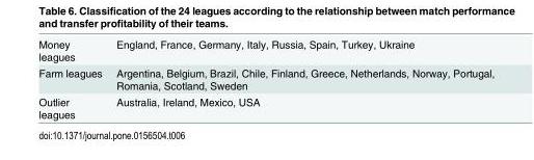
<table><tbody><tr><td>Money leagues</td><td>England, France, Germany, Italy, Russia, Spain, Turkey, Ukraine</td></tr><tr><td>Farm leagues</td><td>Argentina, Belgium, Brazil, Chile, Finland, Greece, Netherlands, Norway, Portugal, Romania, Scotland, Sweden</td></tr><tr><td>Outlier leagues</td><td>Australia, Ireland, Mexico, USA</td></tr></tbody></table>